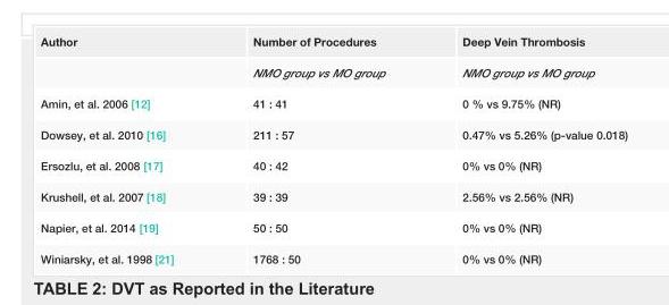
<table><tbody><tr><td rowspan="2">Author</td><td>Number of Procedures</td><td>Deep Vein Thrombosis</td></tr><tr><td>NMO group vs MO group</td><td>NMO group vs MO group</td></tr><tr><td>Amin, et al. 2006 [12]</td><td>41 : 41</td><td>0 % vs 9.75% (NR)</td></tr><tr><td>Dowsey, et al. 2010 [16]</td><td>211 : 57</td><td>0.47% vs 5.26% (p-value 0.018)</td></tr><tr><td>Ersozlu, et al. 2008 [17]</td><td>40 : 42</td><td>0% vs 0% (NR)</td></tr><tr><td>Krushell, et al. 2007 [18]</td><td>39 : 39</td><td>2.56% vs 2.56% (NR)</td></tr><tr><td>Napier, et al. 2014 [19]</td><td>50 : 50</td><td>0% vs 0% (NR)</td></tr><tr><td>Winiarsky, et al. 1998 [21]</td><td>1768 : 50</td><td>0% vs 0% (NR)</td></tr></tbody></table>